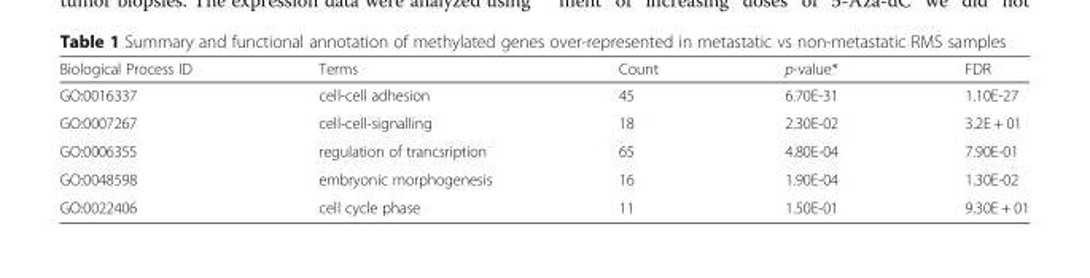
<table><thead><tr><td>Biological Process ID</td><td>Terms</td><td>Count</td><td>p-value*</td><td>FDR</td></tr></thead><tbody><tr><td>GO:0016337</td><td>cell-cell adhesion</td><td>45</td><td>6.70E-31</td><td>1.10E-27</td></tr><tr><td>GO:0007267</td><td>cell-cell-signalling</td><td>18</td><td>2.30E-02</td><td>3.2E + 01</td></tr><tr><td>GO:0006355</td><td>regulation of trancsription</td><td>65</td><td>4.80E-04</td><td>7.90E-01</td></tr><tr><td>GO:0048598</td><td>embryonic morphogenesis</td><td>16</td><td>1.90E-04</td><td>1.30E-02</td></tr><tr><td>GO:0022406</td><td>cell cycle phase</td><td>11</td><td>1.50E-01</td><td>9.30E + 01</td></tr></tbody></table>